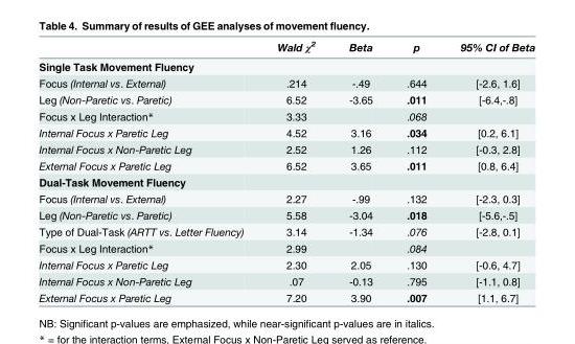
<table><thead><tr><td></td><td>Wald χ<sup>2</sup></td><td>Beta</td><td>p</td><td>95% CI of Beta</td></tr></thead><tbody><tr><td colspan="5">Single Task Movement Fluency</td></tr><tr><td>Focus (Internal vs. External)</td><td>.214</td><td>-.49</td><td>.644</td><td>[-2.6, 1.6]</td></tr><tr><td>Leg (Non-Paretic vs. Paretic)</td><td>6.52</td><td>-3.65</td><td>.011</td><td>[-6.4,-.8]</td></tr><tr><td>Focus x Leg Interaction*</td><td>3.33</td><td></td><td>.068</td><td></td></tr><tr><td>Internal Focus x Paretic Leg</td><td>4.52</td><td>3.16</td><td>.034</td><td>[0.2, 6.1]</td></tr><tr><td>Internal Focus x Non-Paretic Leg</td><td>2.52</td><td>1.26</td><td>.112</td><td>[-0.3, 2.8]</td></tr><tr><td>External Focus x Paretic Leg</td><td>6.52</td><td>3.65</td><td>.011</td><td>[0.8, 6.4]</td></tr><tr><td colspan="5">Dual-Task Movement Fluency</td></tr><tr><td>Focus (Internal vs. External)</td><td>2.27</td><td>-.99</td><td>.132</td><td>[-2.3, 0.3]</td></tr><tr><td>Leg (Non-Paretic vs. Paretic)</td><td>5.58</td><td>-3.04</td><td>.018</td><td>[-5.6,-.5]</td></tr><tr><td>Type of Dual-Task (ARTT vs. Letter Fluency)</td><td>3.14</td><td>-1.34</td><td>.076</td><td>[-2.8, 0.1]</td></tr><tr><td>Focus x Leg Interaction*</td><td>2.99</td><td></td><td>.084</td><td></td></tr><tr><td>Internal Focus x Paretic Leg</td><td>2.30</td><td>2.05</td><td>.130</td><td>[-0.6, 4.7]</td></tr><tr><td>Internal Focus x Non-Paretic Leg</td><td>.07</td><td>-0.13</td><td>.795</td><td>[-1.1, 0.8]</td></tr><tr><td>External Focus x Paretic Leg</td><td>7.20</td><td>3.90</td><td>.007</td><td>[1.1, 6.7]</td></tr></tbody></table>